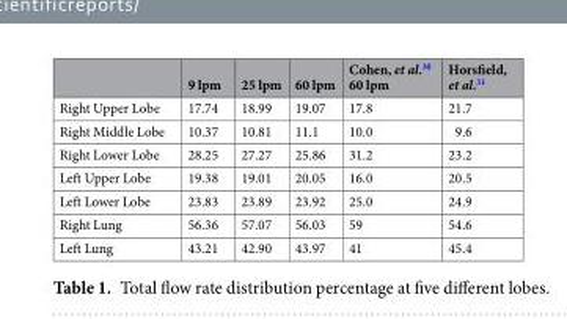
<table><thead><tr><td></td><td>9 lpm</td><td>25 lpm</td><td>60 lpm</td><td>Cohen, et al.<sup>30</sup> 60 lpm</td><td>Horsfield, et al.<sup>31</sup></td></tr></thead><tbody><tr><td>Right Upper Lobe</td><td>17.74</td><td>18.99</td><td>19.07</td><td>17.8</td><td>21.7</td></tr><tr><td>Right Middle Lobe</td><td>10.37</td><td>10.81</td><td>11.1</td><td>10.0</td><td>9.6</td></tr><tr><td>Right Lower Lobe</td><td>28.25</td><td>27.27</td><td>25.86</td><td>31.2</td><td>23.2</td></tr><tr><td>Left Upper Lobe</td><td>19.38</td><td>19.01</td><td>20.05</td><td>16.0</td><td>20.5</td></tr><tr><td>Left Lower Lobe</td><td>23.83</td><td>23.89</td><td>23.92</td><td>25.0</td><td>24.9</td></tr><tr><td>Right Lung</td><td>56.36</td><td>57.07</td><td>56.03</td><td>59</td><td>54.6</td></tr><tr><td>Left Lung</td><td>43.21</td><td>42.90</td><td>43.97</td><td>41</td><td>45.4</td></tr></tbody></table>